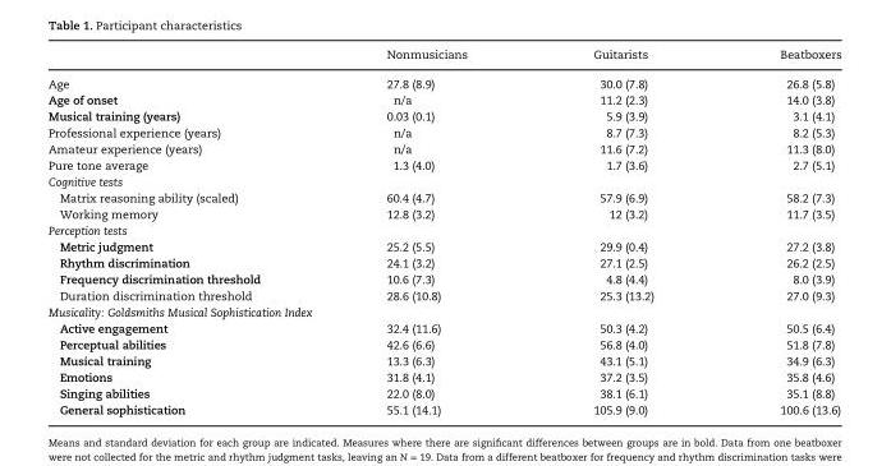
<table><thead><tr><td></td><td>Nonmusicians</td><td>Guitarists</td><td>Beatboxers</td></tr></thead><tbody><tr><td>Age</td><td>27.8 (8.9)</td><td>30.0 (7.8)</td><td>26.8 (5.8)</td></tr><tr><td>Age of onset</td><td>n/a</td><td>11.2 (2.3)</td><td>14.0 (3.8)</td></tr><tr><td>Musical training (years)</td><td>0.03 (0.1)</td><td>5.9 (3.9)</td><td>3.1 (4.1)</td></tr><tr><td>Professional experience (years)</td><td>n/a</td><td>8.7 (7.3)</td><td>8.2 (5.3)</td></tr><tr><td>Amateur experience (years)</td><td>n/a</td><td>11.6 (7.2)</td><td>11.3 (8.0)</td></tr><tr><td>Pure tone average</td><td>1.3 (4.0)</td><td>1.7 (3.6)</td><td>2.7 (5.1)</td></tr><tr><td colspan="4">Cognitive tests</td></tr><tr><td>Matrix reasoning ability (scaled)</td><td>60.4 (4.7)</td><td>57.9 (6.9)</td><td>58.2 (7.3)</td></tr><tr><td>Working memory</td><td>12.8 (3.2)</td><td>12 (3.2)</td><td>11.7 (3.5)</td></tr><tr><td colspan="4">Perception tests</td></tr><tr><td>Metric judgment</td><td>25.2 (5.5)</td><td>29.9 (0.4)</td><td>27.2 (3.8)</td></tr><tr><td>Rhythm discrimination</td><td>24.1 (3.2)</td><td>27.1 (2.5)</td><td>26.2 (2.5)</td></tr><tr><td>Frequency discrimination threshold</td><td>10.6 (7.3)</td><td>4.8 (4.4)</td><td>8.0 (3.9)</td></tr><tr><td>Duration discrimination threshold</td><td>28.6 (10.8)</td><td>25.3 (13.2)</td><td>27.0 (9.3)</td></tr><tr><td colspan="4">Musicality: Goldsmiths Musical Sophistication Index</td></tr><tr><td>Active engagement</td><td>32.4 (11.6)</td><td>50.3 (4.2)</td><td>50.5 (6.4)</td></tr><tr><td>Perceptual abilities</td><td>42.6 (6.6)</td><td>56.8 (4.0)</td><td>51.8 (7.8)</td></tr><tr><td>Musical training</td><td>13.3 (6.3)</td><td>43.1 (5.1)</td><td>34.9 (6.3)</td></tr><tr><td>Emotions</td><td>31.8 (4.1)</td><td>37.2 (3.5)</td><td>35.8 (4.6)</td></tr><tr><td>Singing abilities</td><td>22.0 (8.0)</td><td>38.1 (6.1)</td><td>35.1 (8.8)</td></tr><tr><td>General sophistication</td><td>55.1 (14.1)</td><td>105.9 (9.0)</td><td>100.6 (13.6)</td></tr></tbody></table>